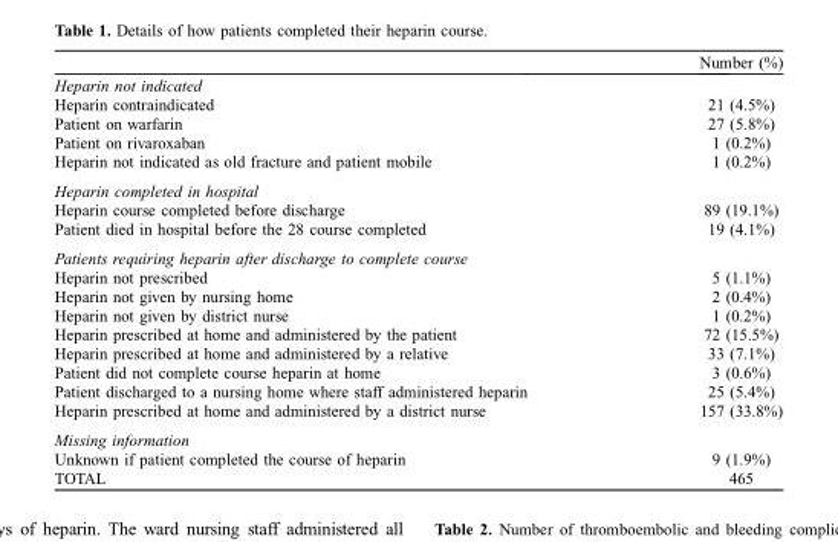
<table><thead><tr><td></td><td>Number (%)</td></tr></thead><tbody><tr><td colspan="2">Heparin not indicated</td></tr><tr><td>Heparin contraindicated</td><td>21 (4.5%)</td></tr><tr><td>Patient on warfarin</td><td>27 (5.8%)</td></tr><tr><td>Patient on rivaroxaban</td><td>1 (0.2%)</td></tr><tr><td>Heparin not indicated as old fracture and patient mobile</td><td>1 (0.2%)</td></tr><tr><td colspan="2">Heparin completed in hospital</td></tr><tr><td>Heparin course completed before discharge</td><td>89 (19.1%)</td></tr><tr><td>Patient died in hospital before the 28 course completed</td><td>19 (4.1%)</td></tr><tr><td colspan="2">Patients requiring heparin after discharge to complete course</td></tr><tr><td>Heparin not prescribed</td><td>5 (1.1%)</td></tr><tr><td>Heparin not given by nursing home</td><td>2 (0.4%)</td></tr><tr><td>Heparin not given by district nurse</td><td>1 (0.2%)</td></tr><tr><td>Heparin prescribed at home and administered by the patient</td><td>72 (15.5%)</td></tr><tr><td>Heparin prescribed at home and administered by a relative</td><td>33 (7.1%)</td></tr><tr><td>Patient did not complete course heparin at home</td><td>3 (0.6%)</td></tr><tr><td>Patient discharged to a nursing home where staff administered heparin</td><td>25 (5.4%)</td></tr><tr><td>Heparin prescribed at home and administered by a district nurse</td><td>157 (33.8%)</td></tr><tr><td colspan="2">Missing information</td></tr><tr><td>Unknown if patient completed the course of heparin</td><td>9 (1.9%)</td></tr><tr><td>TOTAL</td><td>465</td></tr></tbody></table>